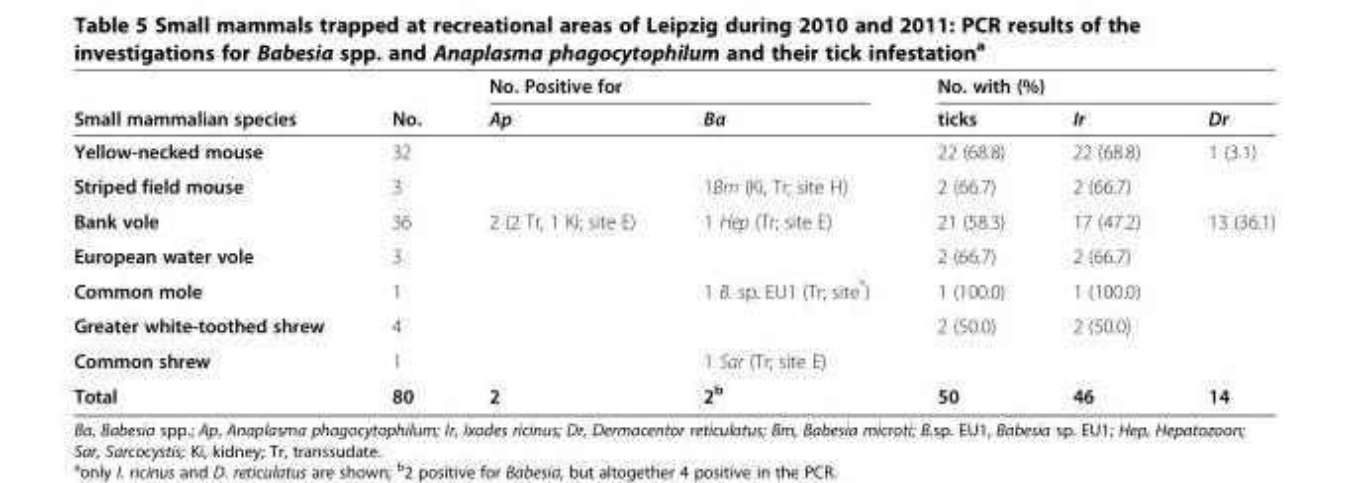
<table><thead><tr><td rowspan="2">Small mammalian species</td><td rowspan="2">No.</td><td colspan="2">No. Positive for</td><td colspan="3">No. with (%)</td></tr><tr><td>Ap</td><td>Ba</td><td>ticks</td><td>Ir</td><td>Dr</td></tr></thead><tbody><tr><td>Yellow-necked mouse</td><td>32</td><td></td><td></td><td>22 (68.8)</td><td>22 (68.8)</td><td>1 (3.1)</td></tr><tr><td>Striped field mouse</td><td>3</td><td></td><td>1Bm (Ki, Tr; site H)</td><td>2 (66.7)</td><td>2 (66.7)</td><td></td></tr><tr><td>Bank vole</td><td>36</td><td>2 (2 Tr, 1 Ki; site E)</td><td>1 Hep (Tr; site E)</td><td>21 (58.3)</td><td>17 (47.2)</td><td>13 (36.1)</td></tr><tr><td>European water vole</td><td>3</td><td></td><td></td><td>2 (66.7)</td><td>2 (66.7)</td><td></td></tr><tr><td>Common mole</td><td>1</td><td></td><td>1 B. sp. EU1 (Tr; site*)</td><td>1 (100.0)</td><td>1 (100.0)</td><td></td></tr><tr><td>Greater white-toothed shrew</td><td>4</td><td></td><td></td><td>2 (50.0)</td><td>2 (50.0)</td><td></td></tr><tr><td>Common shrew</td><td>1</td><td></td><td>1 Sar (Tr; site E)</td><td></td><td></td><td></td></tr><tr><td>Total</td><td>80</td><td>2</td><td>2<sup>b</sup></td><td>50</td><td>46</td><td>14</td></tr></tbody></table>